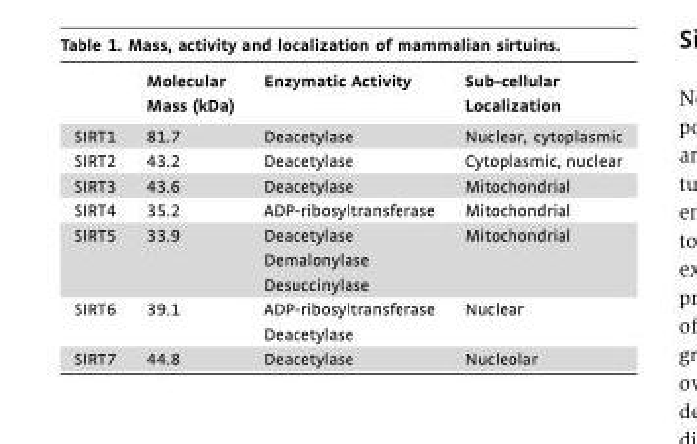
<table><thead><tr><td></td><td>Molecular Mass (kDa)</td><td>Enzymatic Activity</td><td>Sub-cellular Localization</td></tr></thead><tbody><tr><td>SIRT1</td><td>81.7</td><td>Deacetylase</td><td>Nuclear, cytoplasmic</td></tr><tr><td>SIRT2</td><td>43.2</td><td>Deacetylase</td><td>Cytoplasmic, nuclear</td></tr><tr><td>SIRT3</td><td>43.6</td><td>Deacetylase</td><td>Mitochondrial</td></tr><tr><td>SIRT4</td><td>35.2</td><td>ADP-ribosyltransferase</td><td>Mitochondrial</td></tr><tr><td rowspan="3">SIRT5</td><td rowspan="3">33.9</td><td>Deacetylase</td><td rowspan="3">Mitochondrial</td></tr><tr><td>Demalonylase</td></tr><tr><td>Desuccinylase</td></tr><tr><td rowspan="2">SIRT6</td><td rowspan="2">39.1</td><td>ADP-ribosyltransferase</td><td rowspan="2">Nuclear</td></tr><tr><td>Deacetylase</td></tr><tr><td>SIRT7</td><td>44.8</td><td>Deacetylase</td><td>Nucleolar</td></tr></tbody></table>